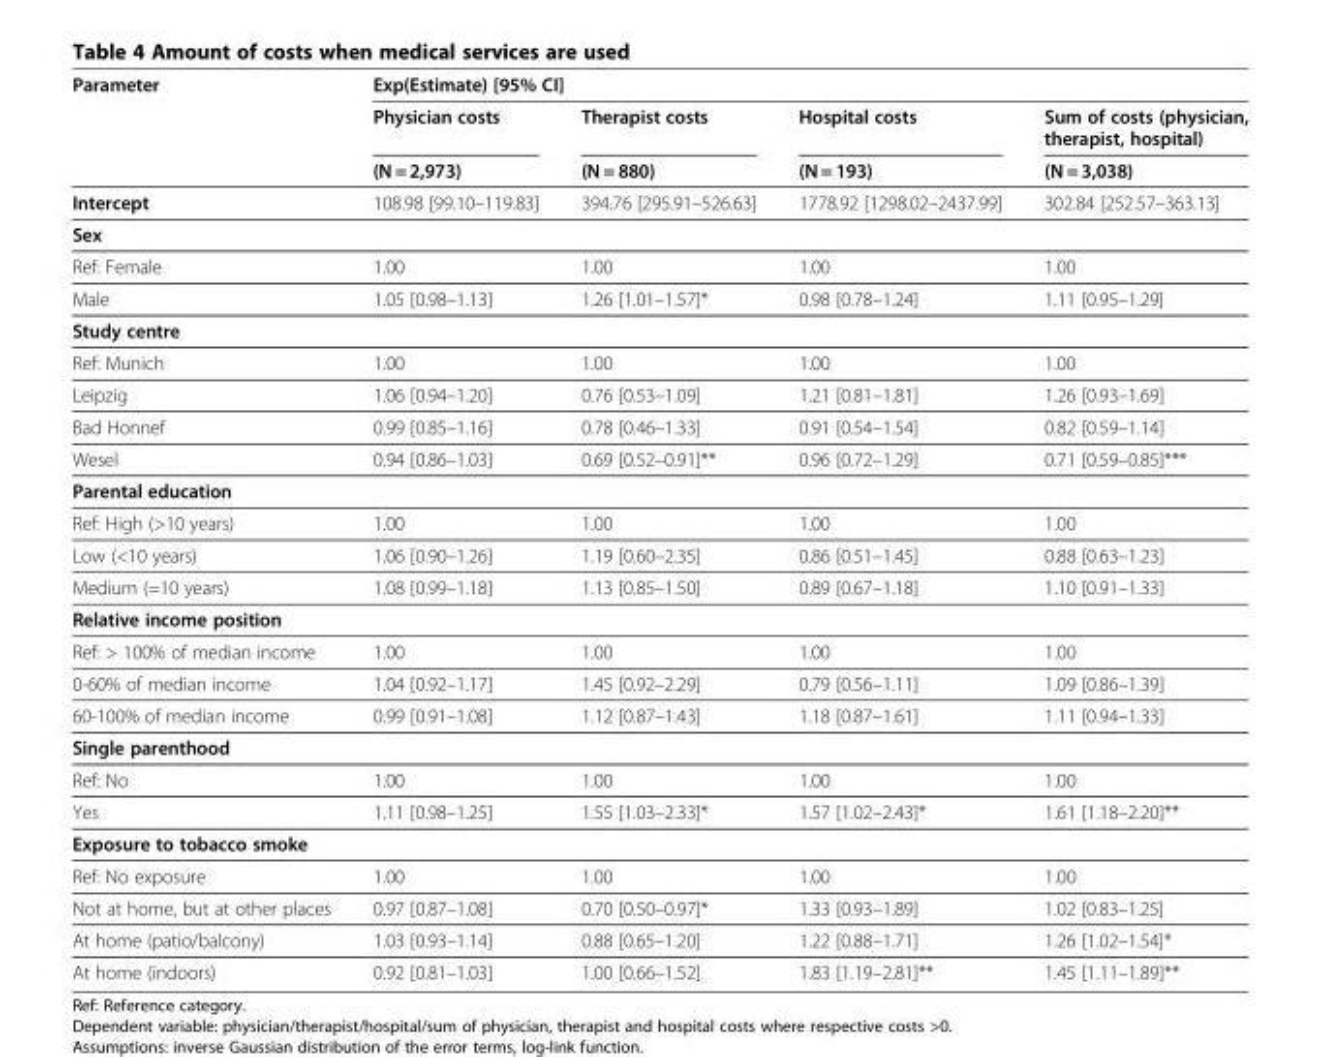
<table><thead><tr><td rowspan="3">Parameter</td><td colspan="4">Exp(Estimate) [95% CI]</td></tr><tr><td rowspan="2">Physician costs (N = 2,973)</td><td rowspan="2">Therapist costs (N = 880)</td><td rowspan="2">Hospital costs (N = 193)</td><td rowspan="2">Sum of costs (physician, therapist, hospital) (N = 3,038)</td></tr><tr></tr></thead><tbody><tr><td>Intercept</td><td>108.98 [99.10–119.83]</td><td>394.76 [295.91–526.63]</td><td>1778.92 [1298.02–2437.99]</td><td>302.84 [252.57–363.13]</td></tr><tr><td colspan="5">Sex</td></tr><tr><td>Ref: Female</td><td>1.00</td><td>1.00</td><td>1.00</td><td>1.00</td></tr><tr><td>Male</td><td>1.05 [0.98–1.13]</td><td>1.26 [1.01–1.57]*</td><td>0.98 [0.78–1.24]</td><td>1.11 [0.95–1.29]</td></tr><tr><td colspan="5">Study centre</td></tr><tr><td>Ref: Munich</td><td>1.00</td><td>1.00</td><td>1.00</td><td>1.00</td></tr><tr><td>Leipzig</td><td>1.06 [0.94–1.20]</td><td>0.76 [0.53–1.09]</td><td>1.21 [0.81–1.81]</td><td>1.26 [0.93–1.69]</td></tr><tr><td>Bad Honnef</td><td>0.99 [0.85–1.16]</td><td>0.78 [0.46–1.33]</td><td>0.91 [0.54–1.54]</td><td>0.82 [0.59–1.14]</td></tr><tr><td>Wesel</td><td>0.94 [0.86–1.03]</td><td>0.69 [0.52–0.91]**</td><td>0.96 [0.72–1.29]</td><td>0.71 [0.59–0.85]***</td></tr><tr><td colspan="5">Parental education</td></tr><tr><td>Ref: High (&gt;10 years)</td><td>1.00</td><td>1.00</td><td>1.00</td><td>1.00</td></tr><tr><td>Low (&lt;10 years)</td><td>1.06 [0.90–1.26]</td><td>1.19 [0.60–2.35]</td><td>0.86 [0.51–1.45]</td><td>0.88 [0.63–1.23]</td></tr><tr><td>Medium (=10 years)</td><td>1.08 [0.99–1.18]</td><td>1.13 [0.85–1.50]</td><td>0.89 [0.67–1.18]</td><td>1.10 [0.91–1.33]</td></tr><tr><td colspan="5">Relative income position</td></tr><tr><td>Ref: &gt; 100% of median income</td><td>1.00</td><td>1.00</td><td>1.00</td><td>1.00</td></tr><tr><td>0-60% of median income</td><td>1.04 [0.92–1.17]</td><td>1.45 [0.92–2.29]</td><td>0.79 [0.56–1.11]</td><td>1.09 [0.86–1.39]</td></tr><tr><td>60-100% of median income</td><td>0.99 [0.91–1.08]</td><td>1.12 [0.87–1.43]</td><td>1.18 [0.87–1.61]</td><td>1.11 [0.94–1.33]</td></tr><tr><td colspan="5">Single parenthood</td></tr><tr><td>Ref: No</td><td>1.00</td><td>1.00</td><td>1.00</td><td>1.00</td></tr><tr><td>Yes</td><td>1.11 [0.98–1.25]</td><td>1.55 [1.03–2.33]*</td><td>1.57 [1.02–2.43]*</td><td>1.61 [1.18–2.20]**</td></tr><tr><td colspan="5">Exposure to tobacco smoke</td></tr><tr><td>Ref: No exposure</td><td>1.00</td><td>1.00</td><td>1.00</td><td>1.00</td></tr><tr><td>Not at home, but at other places</td><td>0.97 [0.87–1.08]</td><td>0.70 [0.50–0.97]*</td><td>1.33 [0.93–1.89]</td><td>1.02 [0.83–1.25]</td></tr><tr><td>At home (patio/balcony)</td><td>1.03 [0.93–1.14]</td><td>0.88 [0.65–1.20]</td><td>1.22 [0.88–1.71]</td><td>1.26 [1.02–1.54]*</td></tr><tr><td>At home (indoors)</td><td>0.92 [0.81–1.03]</td><td>1.00 [0.66–1.52]</td><td>1.83 [1.19–2.81]**</td><td>1.45 [1.11–1.89]**</td></tr></tbody></table>